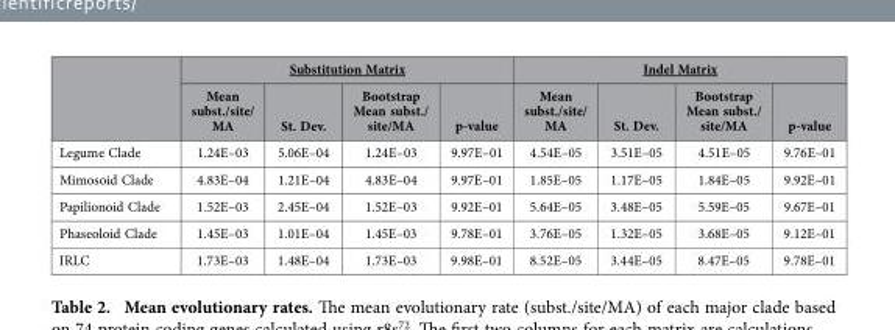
<table><thead><tr><td rowspan="2"></td><td colspan="4">Substitution Matrix</td><td colspan="4">Indel Matrix</td></tr><tr><td>Mean subst./site/ MA</td><td>St. Dev.</td><td>Bootstrap Mean subst./ site/MA</td><td>p-value</td><td>Mean subst./site/ MA</td><td>St. Dev.</td><td>Bootstrap Mean subst./ site/MA</td><td>p-value</td></tr></thead><tbody><tr><td>Legume Clade</td><td>1.24E–03</td><td>5.06E–04</td><td>1.24E–03</td><td>9.97E–01</td><td>4.54E–05</td><td>3.51E–05</td><td>4.51E–05</td><td>9.76E–01</td></tr><tr><td>Mimosoid Clade</td><td>4.83E–04</td><td>1.21E–04</td><td>4.83E–04</td><td>9.97E–01</td><td>1.85E–05</td><td>1.17E–05</td><td>1.84E–05</td><td>9.92E–01</td></tr><tr><td>Papilionoid Clade</td><td>1.52E–03</td><td>2.45E–04</td><td>1.52E–03</td><td>9.92E–01</td><td>5.64E–05</td><td>3.48E–05</td><td>5.59E–05</td><td>9.67E–01</td></tr><tr><td>Phaseoloid Clade</td><td>1.45E–03</td><td>1.01E–04</td><td>1.45E–03</td><td>9.78E–01</td><td>3.76E–05</td><td>1.32E–05</td><td>3.68E–05</td><td>9.12E–01</td></tr><tr><td>IRLC</td><td>1.73E–03</td><td>1.48E–04</td><td>1.73E–03</td><td>9.98E–01</td><td>8.52E–05</td><td>3.44E–05</td><td>8.47E–05</td><td>9.78E–01</td></tr></tbody></table>